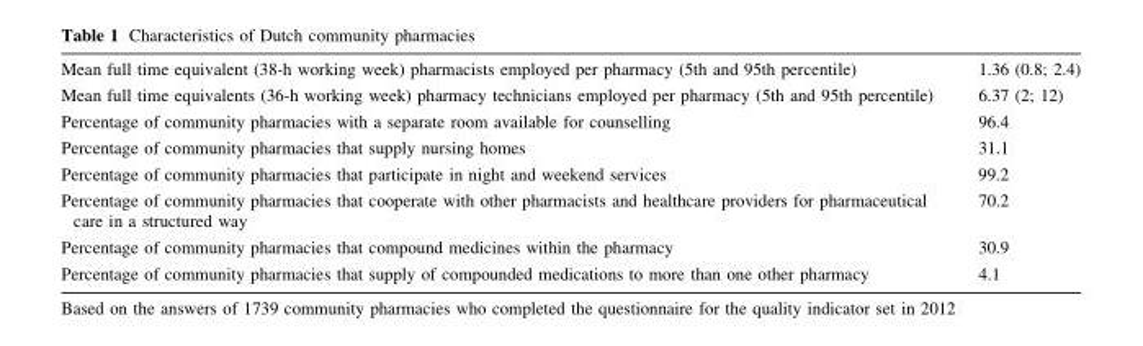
<table><tbody><tr><td>Mean full time equivalent (38-h working week) pharmacists employed per pharmacy (5th and 95th percentile)</td><td>1.36 (0.8; 2.4)</td></tr><tr><td>Mean full time equivalents (36-h working week) pharmacy technicians employed per pharmacy (5th and 95th percentile)</td><td>6.37 (2; 12)</td></tr><tr><td>Percentage of community pharmacies with a separate room available for counselling</td><td>96.4</td></tr><tr><td>Percentage of community pharmacies that supply nursing homes</td><td>31.1</td></tr><tr><td>Percentage of community pharmacies that participate in night and weekend services</td><td>99.2</td></tr><tr><td>Percentage of community pharmacies that cooperate with other pharmacists and healthcare providers for pharmaceutical care in a structured way</td><td>70.2</td></tr><tr><td>Percentage of community pharmacies that compound medicines within the pharmacy</td><td>30.9</td></tr><tr><td>Percentage of community pharmacies that supply of compounded medications to more than one other pharmacy</td><td>4.1</td></tr></tbody></table>